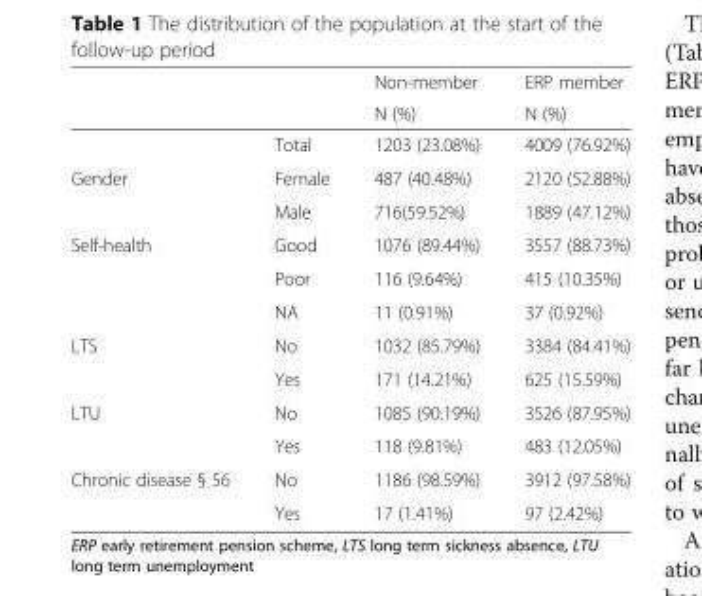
<table><thead><tr><td rowspan="2"></td><td rowspan="2"></td><td rowspan="2">Non-member N (%)</td><td rowspan="2">ERP member N (%)</td></tr><tr></tr></thead><tbody><tr><td></td><td>Total</td><td>1203 (23.08%)</td><td>4009 (76.92%)</td></tr><tr><td rowspan="2">Gender</td><td>Female</td><td>487 (40.48%)</td><td>2120 (52.88%)</td></tr><tr><td>Male</td><td>716(59.52%)</td><td>1889 (47.12%)</td></tr><tr><td rowspan="3">Self-health</td><td>Good</td><td>1076 (89.44%)</td><td>3557 (88.73%)</td></tr><tr><td>Poor</td><td>116 (9.64%)</td><td>415 (10.35%)</td></tr><tr><td>NA</td><td>11 (0.91%)</td><td>37 (0.92%)</td></tr><tr><td rowspan="2">LTS</td><td>No</td><td>1032 (85.79%)</td><td>3384 (84.41%)</td></tr><tr><td>Yes</td><td>171 (14.21%)</td><td>625 (15.59%)</td></tr><tr><td rowspan="2">LTU</td><td>No</td><td>1085 (90.19%)</td><td>3526 (87.95%)</td></tr><tr><td>Yes</td><td>118 (9.81%)</td><td>483 (12.05%)</td></tr><tr><td rowspan="2">Chronic disease § 56</td><td>No</td><td>1186 (98.59%)</td><td>3912 (97.58%)</td></tr><tr><td>Yes</td><td>17 (1.41%)</td><td>97 (2.42%)</td></tr></tbody></table>